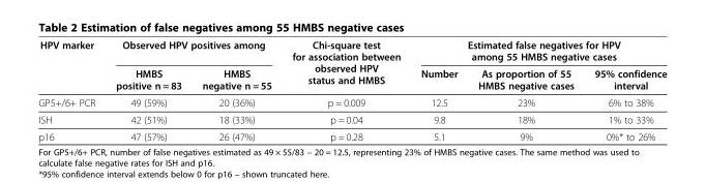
<table><thead><tr><td rowspan="2">HPV marker</td><td colspan="2">Observed HPV positives among</td><td rowspan="2">Chi-square test for association between observed HPV status and HMBS</td><td colspan="3">Estimated false negatives for HPV among 55 HMBS negative cases</td></tr><tr><td>HMBS positive n = 83</td><td>HMBS negative n = 55</td><td>Number</td><td>As proportion of 55 HMBS negative cases</td><td>95% confidence interval</td></tr></thead><tbody><tr><td>GP5+/6+ PCR</td><td>49 (59%)</td><td>20 (36%)</td><td>p = 0.009</td><td>12.5</td><td>23%</td><td>6% to 38%</td></tr><tr><td>ISH</td><td>42 (51%)</td><td>18 (33%)</td><td>p = 0.04</td><td>9.8</td><td>18%</td><td>1% to 33%</td></tr><tr><td>p16</td><td>47 (57%)</td><td>26 (47%)</td><td>p = 0.28</td><td>5.1</td><td>9%</td><td>0%* to 26%</td></tr></tbody></table>